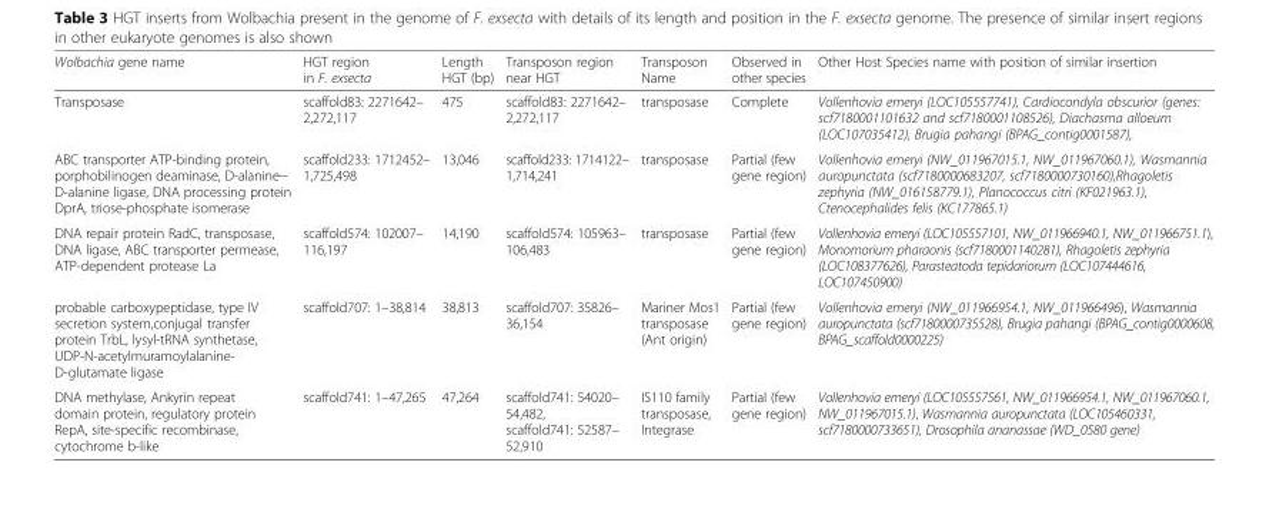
<table><thead><tr><td>Wolbachia gene name</td><td>HGT region in F. exsecta</td><td>Length HGT (bp)</td><td>Transposon region near HGT</td><td>Transposon Name</td><td>Observed in other species</td><td>Other Host Species name with position of similar insertion</td></tr></thead><tbody><tr><td>Transposase</td><td>scaffold83: 2271642– 2,272,117</td><td>475</td><td>scaffold83: 2271642– 2,272,117</td><td>transposase</td><td>Complete</td><td>Vollenhovia emeryi (LOC105557741), Cardiocondyla obscurior (genes: scf7180001101632 and scf7180001108526), Diachasma alloeum (LOC107035412), Brugia pahangi (BPAG_contig0001587),</td></tr><tr><td>ABC transporter ATP-binding protein, porphobilinogen deaminase, D-alanine-- D-alanine ligase, DNA processing protein DprA, triose-phosphate isomerase</td><td>scaffold233: 1712452– 1,725,498</td><td>13,046</td><td>scaffold233: 1714122– 1,714,241</td><td>transposase</td><td>Partial (few gene region)</td><td>Vollenhovia emeryi (NW_011967015.1, NW_011967060.1), Wasmannia auropunctata (scf7180000683207, scf7180000730160),Rhagoletis zephyria (NW_016158779.1), Planococcus citri (KF021963.1), Ctenocephalides felis (KC177865.1)</td></tr><tr><td>DNA repair protein RadC, transposase, DNA ligase, ABC transporter permease, ATP-dependent protease La</td><td>scaffold574: 102007– 116,197</td><td>14,190</td><td>scaffold574: 105963– 106,483</td><td>transposase</td><td>Partial (few gene region)</td><td>Vollenhovia emeryi (LOC105557101, NW_011966940.1, NW_011966751.1), Monomorium pharaonis (scf7180001140281), Rhagoletis zephyria (LOC108377626), Parasteatoda tepidariorum (LOC107444616, LOC107450900)</td></tr><tr><td>probable carboxypeptidase, type IV secretion system,conjugal transfer protein TrbL, lysyl-tRNA synthetase, UDP-N-acetylmuramoylalanine- D-glutamate ligase</td><td>scaffold707: 1–38,814</td><td>38,813</td><td>scaffold707: 35826– 36,154</td><td>Mariner Mos1 transposase (Ant origin)</td><td>Partial (few gene region)</td><td>Vollenhovia emeryi (NW_011966954.1, NW_011966496), Wasmannia auropunctata (scf7180000735528), Brugia pahangi (BPAG_contig0000608, BPAG_scaffold0000225)</td></tr><tr><td>DNA methylase, Ankyrin repeat domain protein, regulatory protein RepA, site-specific recombinase, cytochrome b-like</td><td>scaffold741: 1–47,265</td><td>47,264</td><td>scaffold741: 54020– 54,482, scaffold741: 52587– 52,910</td><td>IS110 family transposase, Integrase</td><td>Partial (few gene region)</td><td>Vollenhovia emeryi (LOC105557561, NW_011966954.1, NW_011967060.1, NW_011967015.1), Wasmannia auropunctata (LOC105460331, scf7180000733651), Drosophila ananassae (WD_0580 gene)</td></tr></tbody></table>